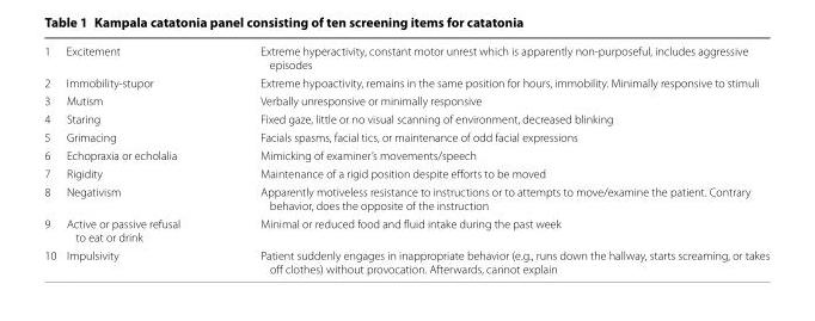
<table><tbody><tr><td>1</td><td>Excitement</td><td>Extreme hyperactivity, constant motor unrest which is apparently non‑purposeful, includes aggressive episodes</td></tr><tr><td>2</td><td>Immobility‑stupor</td><td>Extreme hypoactivity, remains in the same position for hours, immobility. Minimally responsive to stimuli</td></tr><tr><td>3</td><td>Mutism</td><td>Verbally unresponsive or minimally responsive</td></tr><tr><td>4</td><td>Staring</td><td>Fixed gaze, little or no visual scanning of environment, decreased blinking</td></tr><tr><td>5</td><td>Grimacing</td><td>Facials spasms, facial tics, or maintenance of odd facial expressions</td></tr><tr><td>6</td><td>Echopraxia or echolalia</td><td>Mimicking of examiner’s movements/speech</td></tr><tr><td>7</td><td>Rigidity</td><td>Maintenance of a rigid position despite efforts to be moved</td></tr><tr><td>8</td><td>Negativism</td><td>Apparently motiveless resistance to instructions or to attempts to move/examine the patient. Contrary behavior, does the opposite of the instruction</td></tr><tr><td>9</td><td>Active or passive refusal to eat or drink</td><td>Minimal or reduced food and fluid intake during the past week</td></tr><tr><td>10</td><td>Impulsivity</td><td>Patient suddenly engages in inappropriate behavior (e.g., runs down the hallway, starts screaming, or takes off clothes) without provocation. Afterwards, cannot explain</td></tr></tbody></table>